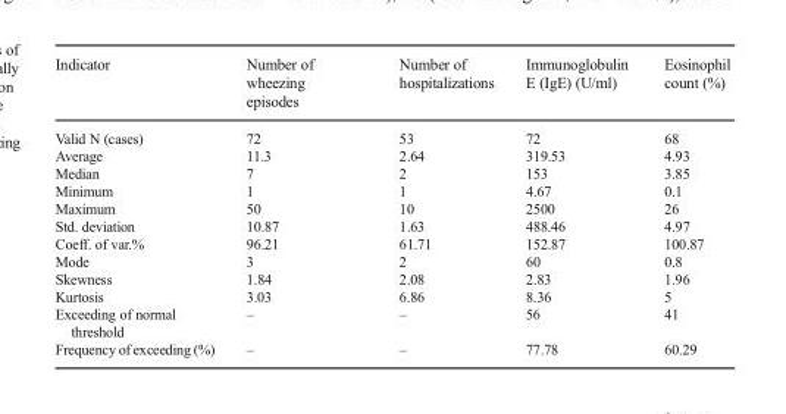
<table><thead><tr><td>Indicator</td><td>Number of wheezing episodes</td><td>Number of hospitalizations</td><td>Immunoglobulin E (IgE) (U/ml)</td><td>Eosinophil count (%)</td></tr></thead><tbody><tr><td>Valid N (cases)</td><td>72</td><td>53</td><td>72</td><td>68</td></tr><tr><td>Average</td><td>11.3</td><td>2.64</td><td>319.53</td><td>4.93</td></tr><tr><td>Median</td><td>7</td><td>2</td><td>153</td><td>3.85</td></tr><tr><td>Minimum</td><td>1</td><td>1</td><td>4.67</td><td>0.1</td></tr><tr><td>Maximum</td><td>50</td><td>10</td><td>2500</td><td>26</td></tr><tr><td>Std. deviation</td><td>10.87</td><td>1.63</td><td>488.46</td><td>4.97</td></tr><tr><td>Coeff. of var.%</td><td>96.21</td><td>61.71</td><td>152.87</td><td>100.87</td></tr><tr><td>Mode</td><td>3</td><td>2</td><td>60</td><td>0.8</td></tr><tr><td>Skewness</td><td>1.84</td><td>2.08</td><td>2.83</td><td>1.96</td></tr><tr><td>Kurtosis</td><td>3.03</td><td>6.86</td><td>8.36</td><td>5</td></tr><tr><td>Exceeding of normal threshold</td><td>–</td><td>–</td><td>56</td><td>41</td></tr><tr><td>Frequency of exceeding (%)</td><td>–</td><td>–</td><td>77.78</td><td>60.29</td></tr></tbody></table>